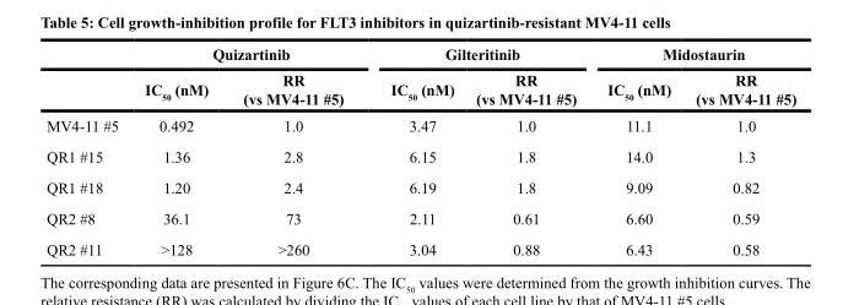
<table><thead><tr><td rowspan="2"></td><td colspan="2">Quizartinib</td><td colspan="2">Gilteritinib</td><td colspan="2">Midostaurin</td></tr><tr><td>IC<sub>50</sub> (nM)</td><td>RR (vs MV4-11 #5)</td><td>IC<sub>50</sub> (nM)</td><td>RR (vs MV4-11 #5)</td><td>IC<sub>50</sub> (nM)</td><td>RR (vs MV4-11 #5)</td></tr></thead><tbody><tr><td>MV4-11 #5</td><td>0.492</td><td>1.0</td><td>3.47</td><td>1.0</td><td>11.1</td><td>1.0</td></tr><tr><td>QR1 #15</td><td>1.36</td><td>2.8</td><td>6.15</td><td>1.8</td><td>14.0</td><td>1.3</td></tr><tr><td>QR1 #18</td><td>1.20</td><td>2.4</td><td>6.19</td><td>1.8</td><td>9.09</td><td>0.82</td></tr><tr><td>QR2 #8</td><td>36.1</td><td>73</td><td>2.11</td><td>0.61</td><td>6.60</td><td>0.59</td></tr><tr><td>QR2 #11</td><td>&gt;128</td><td>&gt;260</td><td>3.04</td><td>0.88</td><td>6.43</td><td>0.58</td></tr></tbody></table>